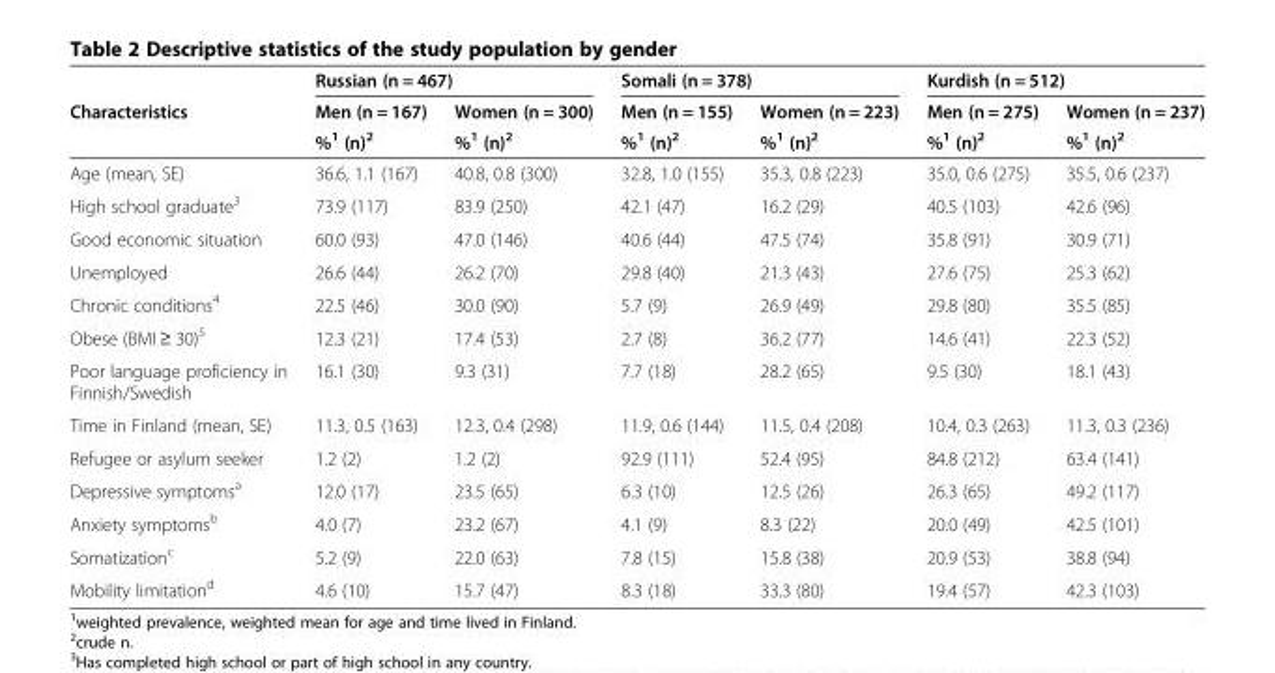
<table><thead><tr><td rowspan="3">Characteristics</td><td colspan="2">Russian (n = 467)</td><td colspan="2">Somali (n = 378)</td><td colspan="2">Kurdish (n = 512)</td></tr><tr><td rowspan="2">Men (n = 167) %<sup>1</sup> (n)<sup>2</sup></td><td rowspan="2">Women (n = 300) %<sup>1</sup> (n)<sup>2</sup></td><td rowspan="2">Men (n = 155) %<sup>1</sup> (n)<sup>2</sup></td><td rowspan="2">Women (n = 223) %<sup>1</sup> (n)<sup>2</sup></td><td rowspan="2">Men (n = 275) %<sup>1</sup> (n)<sup>2</sup></td><td rowspan="2">Women (n = 237) %<sup>1</sup> (n)<sup>2</sup></td></tr><tr></tr></thead><tbody><tr><td>Age (mean, SE)</td><td>36.6, 1.1 (167)</td><td>40.8, 0.8 (300)</td><td>32.8, 1.0 (155)</td><td>35.3, 0.8 (223)</td><td>35.0, 0.6 (275)</td><td>35.5, 0.6 (237)</td></tr><tr><td>High school graduate<sup>3</sup></td><td>73.9 (117)</td><td>83.9 (250)</td><td>42.1 (47)</td><td>16.2 (29)</td><td>40.5 (103)</td><td>42.6 (96)</td></tr><tr><td>Good economic situation</td><td>60.0 (93)</td><td>47.0 (146)</td><td>40.6 (44)</td><td>47.5 (74)</td><td>35.8 (91)</td><td>30.9 (71)</td></tr><tr><td>Unemployed</td><td>26.6 (44)</td><td>26.2 (70)</td><td>29.8 (40)</td><td>21.3 (43)</td><td>27.6 (75)</td><td>25.3 (62)</td></tr><tr><td>Chronic conditions<sup>4</sup></td><td>22.5 (46)</td><td>30.0 (90)</td><td>5.7 (9)</td><td>26.9 (49)</td><td>29.8 (80)</td><td>35.5 (85)</td></tr><tr><td>Obese (BMI ≥ 30)<sup>5</sup></td><td>12.3 (21)</td><td>17.4 (53)</td><td>2.7 (8)</td><td>36.2 (77)</td><td>14.6 (41)</td><td>22.3 (52)</td></tr><tr><td>Poor language proficiency in Finnish/Swedish</td><td>16.1 (30)</td><td>9.3 (31)</td><td>7.7 (18)</td><td>28.2 (65)</td><td>9.5 (30)</td><td>18.1 (43)</td></tr><tr><td>Time in Finland (mean, SE)</td><td>11.3, 0.5 (163)</td><td>12.3, 0.4 (298)</td><td>11.9, 0.6 (144)</td><td>11.5, 0.4 (208)</td><td>10.4, 0.3 (263)</td><td>11.3, 0.3 (236)</td></tr><tr><td>Refugee or asylum seeker</td><td>1.2 (2)</td><td>1.2 (2)</td><td>92.9 (111)</td><td>52.4 (95)</td><td>84.8 (212)</td><td>63.4 (141)</td></tr><tr><td>Depressive symptoms<sup>a</sup></td><td>12.0 (17)</td><td>23.5 (65)</td><td>6.3 (10)</td><td>12.5 (26)</td><td>26.3 (65)</td><td>49.2 (117)</td></tr><tr><td>Anxiety symptoms<sup>b</sup></td><td>4.0 (7)</td><td>23.2 (67)</td><td>4.1 (9)</td><td>8.3 (22)</td><td>20.0 (49)</td><td>42.5 (101)</td></tr><tr><td>Somatization<sup>c</sup></td><td>5.2 (9)</td><td>22.0 (63)</td><td>7.8 (15)</td><td>15.8 (38)</td><td>20.9 (53)</td><td>38.8 (94)</td></tr><tr><td>Mobility limitation<sup>d</sup></td><td>4.6 (10)</td><td>15.7 (47)</td><td>8.3 (18)</td><td>33.3 (80)</td><td>19.4 (57)</td><td>42.3 (103)</td></tr></tbody></table>